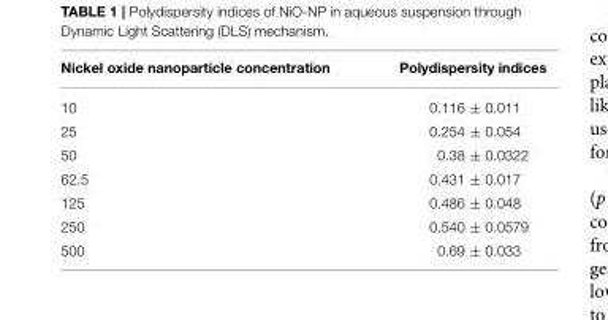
<table><thead><tr><td>Nickel oxide nanoparticle concentration</td><td>Polydispersity indices</td></tr></thead><tbody><tr><td>10</td><td>0.116 ± 0.011</td></tr><tr><td>25</td><td>0.254 ± 0.054</td></tr><tr><td>50</td><td>0.38 ± 0.0322</td></tr><tr><td>62.5</td><td>0.431 ± 0.017</td></tr><tr><td>125</td><td>0.486 ± 0.048</td></tr><tr><td>250</td><td>0.540 ± 0.0579</td></tr><tr><td>500</td><td>0.69 ± 0.033</td></tr></tbody></table>